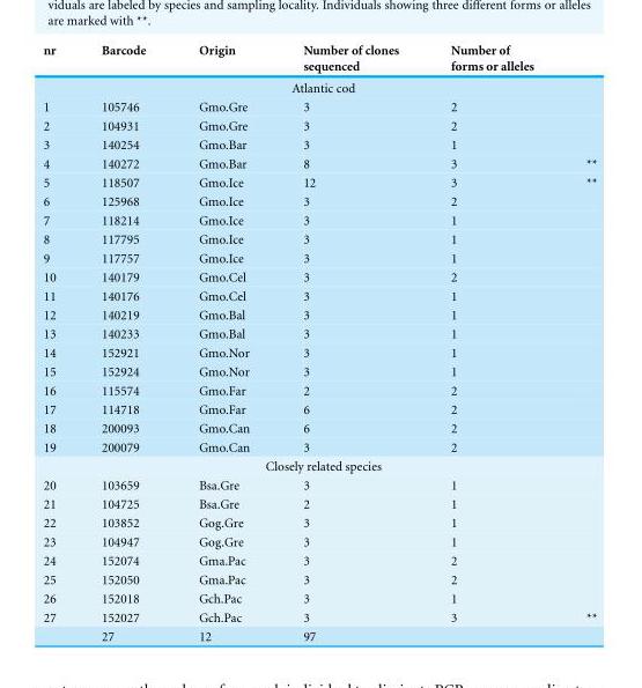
<table><thead><tr><td>nr</td><td>Barcode</td><td>Origin</td><td>Number of clones sequenced</td><td>Number of forms or alleles</td><td></td></tr></thead><tbody><tr><td colspan="6">Atlantic cod</td></tr><tr><td>1</td><td>105746</td><td>Gmo.Gre</td><td>3</td><td>2</td><td></td></tr><tr><td>2</td><td>104931</td><td>Gmo.Gre</td><td>3</td><td>2</td><td></td></tr><tr><td>3</td><td>140254</td><td>Gmo.Bar</td><td>3</td><td>1</td><td></td></tr><tr><td>4</td><td>140272</td><td>Gmo.Bar</td><td>8</td><td>3</td><td>**</td></tr><tr><td>5</td><td>118507</td><td>Gmo.Ice</td><td>12</td><td>3</td><td>**</td></tr><tr><td>6</td><td>125968</td><td>Gmo.Ice</td><td>3</td><td>2</td><td></td></tr><tr><td>7</td><td>118214</td><td>Gmo.Ice</td><td>3</td><td>1</td><td></td></tr><tr><td>8</td><td>117795</td><td>Gmo.Ice</td><td>3</td><td>1</td><td></td></tr><tr><td>9</td><td>117757</td><td>Gmo.Ice</td><td>3</td><td>1</td><td></td></tr><tr><td>10</td><td>140179</td><td>Gmo.Cel</td><td>3</td><td>2</td><td></td></tr><tr><td>11</td><td>140176</td><td>Gmo.Cel</td><td>3</td><td>1</td><td></td></tr><tr><td>12</td><td>140219</td><td>Gmo.Bal</td><td>3</td><td>1</td><td></td></tr><tr><td>13</td><td>140233</td><td>Gmo.Bal</td><td>3</td><td>1</td><td></td></tr><tr><td>14</td><td>152921</td><td>Gmo.Nor</td><td>3</td><td>1</td><td></td></tr><tr><td>15</td><td>152924</td><td>Gmo.Nor</td><td>3</td><td>1</td><td></td></tr><tr><td>16</td><td>115574</td><td>Gmo.Far</td><td>2</td><td>2</td><td></td></tr><tr><td>17</td><td>114718</td><td>Gmo.Far</td><td>6</td><td>2</td><td></td></tr><tr><td>18</td><td>200093</td><td>Gmo.Can</td><td>6</td><td>2</td><td></td></tr><tr><td>19</td><td>200079</td><td>Gmo.Can</td><td>3</td><td>2</td><td></td></tr><tr><td colspan="6">Closely related species</td></tr><tr><td>20</td><td>103659</td><td>Bsa.Gre</td><td>3</td><td>1</td><td></td></tr><tr><td>21</td><td>104725</td><td>Bsa.Gre</td><td>2</td><td>1</td><td></td></tr><tr><td>22</td><td>103852</td><td>Gog.Gre</td><td>3</td><td>1</td><td></td></tr><tr><td>23</td><td>104947</td><td>Gog.Gre</td><td>3</td><td>1</td><td></td></tr><tr><td>24</td><td>152074</td><td>Gma.Pac</td><td>3</td><td>2</td><td></td></tr><tr><td>25</td><td>152050</td><td>Gma.Pac</td><td>3</td><td>2</td><td></td></tr><tr><td>26</td><td>152018</td><td>Gch.Pac</td><td>3</td><td>1</td><td></td></tr><tr><td rowspan="2">27</td><td>152027</td><td>Gch.Pac</td><td>3</td><td>3</td><td>**</td></tr><tr><td>27</td><td>12</td><td>97</td><td></td><td></td></tr></tbody></table>